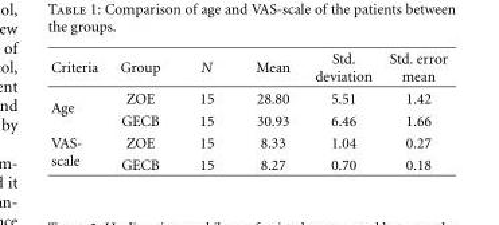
<table><thead><tr><td>Criteria</td><td>Group</td><td>N</td><td>Mean</td><td>Std. deviation</td><td>Std. error mean</td></tr></thead><tbody><tr><td rowspan="2">Age</td><td>ZOE</td><td>15</td><td>28.80</td><td>5.51</td><td>1.42</td></tr><tr><td>GECB</td><td>15</td><td>30.93</td><td>6.46</td><td>1.66</td></tr><tr><td rowspan="2">VAS- scale</td><td>ZOE</td><td>15</td><td>8.33</td><td>1.04</td><td>0.27</td></tr><tr><td>GECB</td><td>15</td><td>8.27</td><td>0.70</td><td>0.18</td></tr></tbody></table>